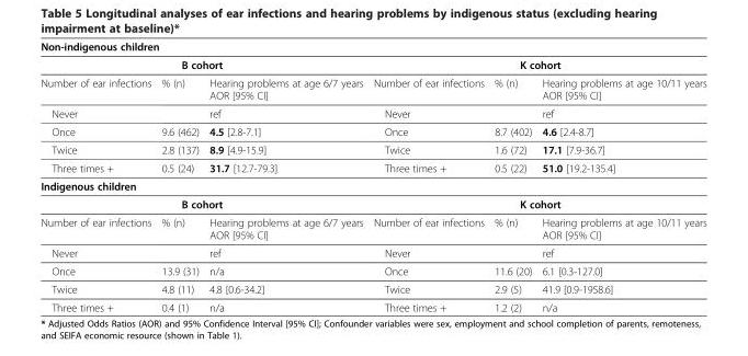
<table><thead><tr><td colspan="6">Non-indigenous children</td></tr><tr><td colspan="3">B cohort</td><td colspan="3">K cohort</td></tr><tr><td>Number of ear infections</td><td>% (n)</td><td>Hearing problems at age 6/7 years AOR [95% CI]</td><td>Number of ear infections</td><td>% (n)</td><td>Hearing problems at age 10/11 years AOR [95% CI]</td></tr></thead><tbody><tr><td>Never</td><td></td><td>ref</td><td>Never</td><td></td><td>ref</td></tr><tr><td>Once</td><td>9.6 (462)</td><td>4.5 [2.8-7.1]</td><td>Once</td><td>8.7 (402)</td><td>4.6 [2.4-8.7]</td></tr><tr><td>Twice</td><td>2.8 (137)</td><td>8.9 [4.9-15.9]</td><td>Twice</td><td>1.6 (72)</td><td>17.1 [7.9-36.7]</td></tr><tr><td>Three times +</td><td>0.5 (24)</td><td>31.7 [12.7-79.3]</td><td>Three times +</td><td>0.5 (22)</td><td>51.0 [19.2-135.4]</td></tr><tr><td colspan="6">Indigenous children</td></tr><tr><td colspan="3">B cohort</td><td colspan="3">K cohort</td></tr><tr><td>Number of ear infections</td><td>% (n)</td><td>Hearing problems at age 6/7 years AOR [95% CI]</td><td>Number of ear infections</td><td>% (n)</td><td>Hearing problems at age 10/11 years AOR [95% CI]</td></tr><tr><td>Never</td><td></td><td>ref</td><td>Never</td><td></td><td>ref</td></tr><tr><td>Once</td><td>13.9 (31)</td><td>n/a</td><td>Once</td><td>11.6 (20)</td><td>6.1 [0.3-127.0]</td></tr><tr><td>Twice</td><td>4.8 (11)</td><td>4.8 [0.6-34.2]</td><td>Twice</td><td>2.9 (5)</td><td>41.9 [0.9-1958.6]</td></tr><tr><td>Three times +</td><td>0.4 (1)</td><td>n/a</td><td>Three times +</td><td>1.2 (2)</td><td>n/a</td></tr></tbody></table>